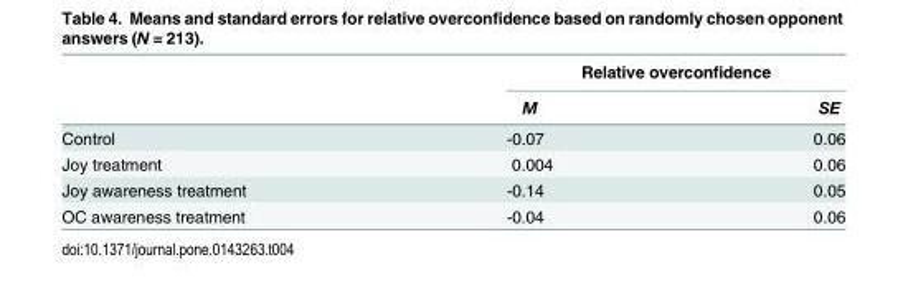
<table><thead><tr><td rowspan="2"></td><td colspan="2">Relative overconfidence</td></tr><tr><td>M</td><td>SE</td></tr></thead><tbody><tr><td>Control</td><td>-0.07</td><td>0.06</td></tr><tr><td>Joy treatment</td><td>0.004</td><td>0.06</td></tr><tr><td>Joy awareness treatment</td><td>-0.14</td><td>0.05</td></tr><tr><td>OC awareness treatment</td><td>-0.04</td><td>0.06</td></tr></tbody></table>